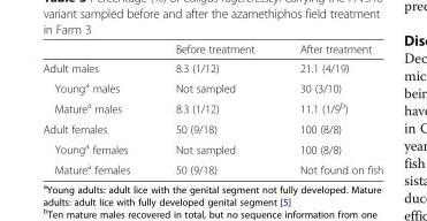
<table><thead><tr><td></td><td>Before treatment</td><td>After treatment</td></tr></thead><tbody><tr><td>Adult males</td><td>8.3 (1/12)</td><td>21.1 (4/19)</td></tr><tr><td>Young<sup>a</sup> males</td><td>Not sampled</td><td>30 (3/10)</td></tr><tr><td>Mature<sup>a</sup> males</td><td>8.3 (1/12)</td><td>11.1 (1/9<sup>b</sup>)</td></tr><tr><td>Adult females</td><td>50 (9/18)</td><td>100 (8/8)</td></tr><tr><td>Young<sup>a</sup> females</td><td>Not sampled</td><td>100 (8/8)</td></tr><tr><td>Mature<sup>a</sup> females</td><td>50 (9/18)</td><td>Not found on fish</td></tr></tbody></table>